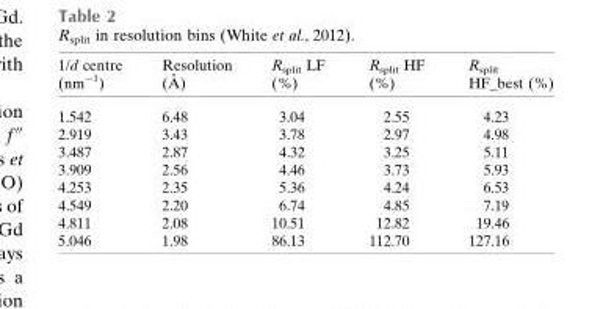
<table><thead><tr><td>1/d centre (nm�1)</td><td>Resolution (A˚ )</td><td>R<sub>split</sub> LF (%)</td><td>R<sub>split</sub> HF (%)</td><td>R<sub>split</sub> HF_best (%)</td></tr></thead><tbody><tr><td>1.542</td><td>6.48</td><td>3.04</td><td>2.55</td><td>4.23</td></tr><tr><td>2.919</td><td>3.43</td><td>3.78</td><td>2.97</td><td>4.98</td></tr><tr><td>3.487</td><td>2.87</td><td>4.32</td><td>3.25</td><td>5.11</td></tr><tr><td>3.909</td><td>2.56</td><td>4.46</td><td>3.73</td><td>5.93</td></tr><tr><td>4.253</td><td>2.35</td><td>5.36</td><td>4.24</td><td>6.53</td></tr><tr><td>4.549</td><td>2.20</td><td>6.74</td><td>4.85</td><td>7.19</td></tr><tr><td>4.811</td><td>2.08</td><td>10.51</td><td>12.82</td><td>19.46</td></tr><tr><td>5.046</td><td>1.98</td><td>86.13</td><td>112.70</td><td>127.16</td></tr></tbody></table>